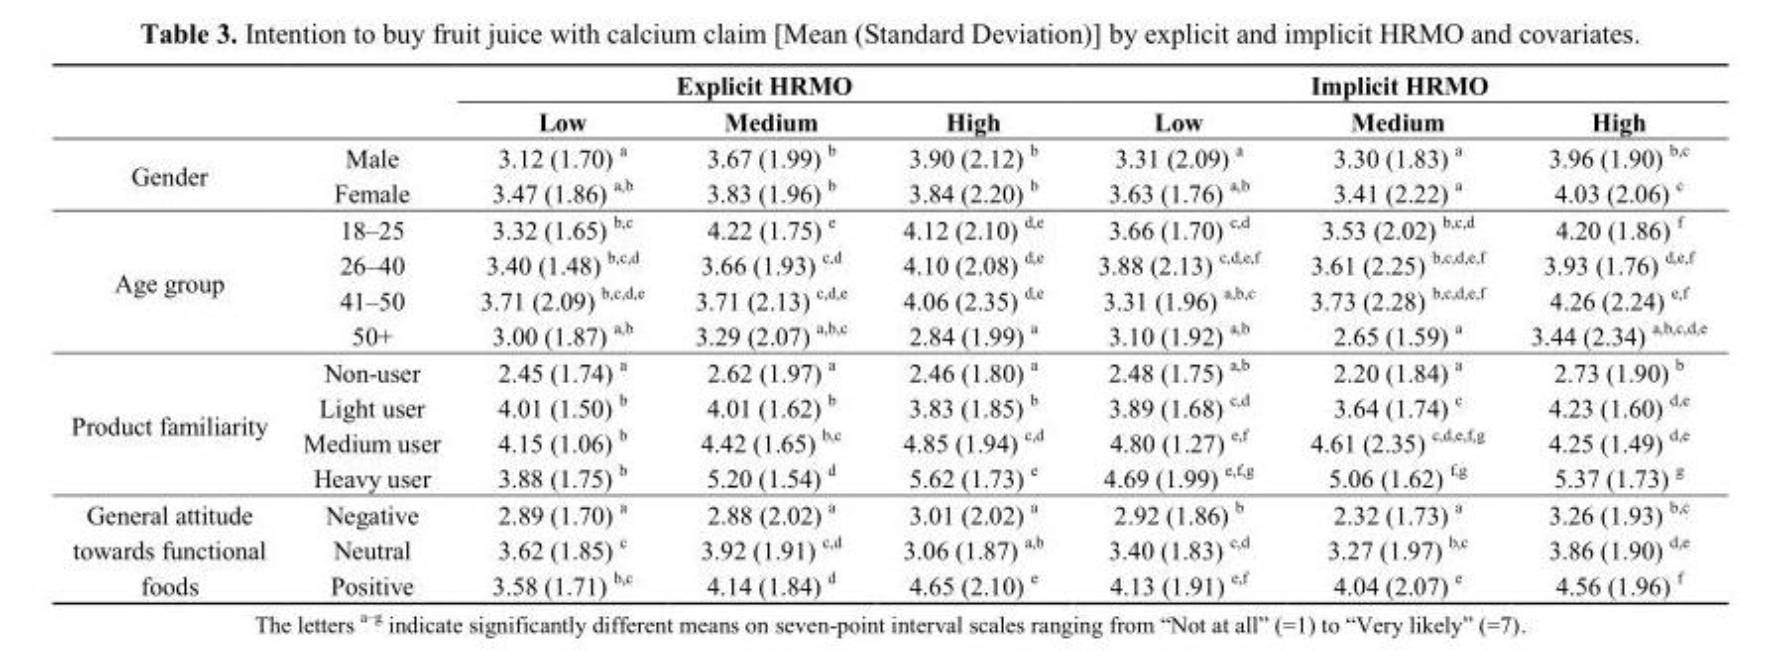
<table><thead><tr><td rowspan="2"></td><td rowspan="2"></td><td colspan="3">Explicit HRMO</td><td colspan="3">Implicit HRMO</td></tr><tr><td>Low</td><td>Medium</td><td>High</td><td>Low</td><td>Medium</td><td>High</td></tr></thead><tbody><tr><td rowspan="2">Gender</td><td>Male</td><td>3.12 (1.70) <sup>a</sup></td><td>3.67 (1.99) <sup>b</sup></td><td>3.90 (2.12) <sup>b</sup></td><td>3.31 (2.09) <sup>a</sup></td><td>3.30 (1.83) <sup>a</sup></td><td>3.96 (1.90) <sup>b,c</sup></td></tr><tr><td>Female</td><td>3.47 (1.86) <sup>a,b</sup></td><td>3.83 (1.96) <sup>b</sup></td><td>3.84 (2.20) <sup>b</sup></td><td>3.63 (1.76) <sup>a,b</sup></td><td>3.41 (2.22) <sup>a</sup></td><td>4.03 (2.06) <sup>c</sup></td></tr><tr><td rowspan="4">Age group</td><td>18–25</td><td>3.32 (1.65) <sup>b,c</sup></td><td>4.22 (1.75) <sup>e</sup></td><td>4.12 (2.10) <sup>d,e</sup></td><td>3.66 (1.70) <sup>c,d</sup></td><td>3.53 (2.02) <sup>b,c,d</sup></td><td>4.20 (1.86) <sup>f</sup></td></tr><tr><td>26–40</td><td>3.40 (1.48) <sup>b,c,d</sup></td><td>3.66 (1.93) <sup>c,d</sup></td><td>4.10 (2.08) <sup>d,e</sup></td><td>3.88 (2.13) <sup>c,d,e,f</sup></td><td>3.61 (2.25) <sup>b,c,d,e,f</sup></td><td>3.93 (1.76) <sup>d,e,f</sup></td></tr><tr><td>41–50</td><td>3.71 (2.09) <sup>b,c,d,e</sup></td><td>3.71 (2.13) <sup>c,d,e</sup></td><td>4.06 (2.35) <sup>d,e</sup></td><td>3.31 (1.96) <sup>a,b,c</sup></td><td>3.73 (2.28) <sup>b,c,d,e,f</sup></td><td>4.26 (2.24) <sup>e,f</sup></td></tr><tr><td>50+</td><td>3.00 (1.87) <sup>a,b</sup></td><td>3.29 (2.07) <sup>a,b,c</sup></td><td>2.84 (1.99) <sup>a</sup></td><td>3.10 (1.92) <sup>a,b</sup></td><td>2.65 (1.59) <sup>a</sup></td><td>3.44 (2.34) <sup>a,b,c,d,e</sup></td></tr><tr><td rowspan="4">Product familiarity</td><td>Non-user</td><td>2.45 (1.74) <sup>a</sup></td><td>2.62 (1.97) <sup>a</sup></td><td>2.46 (1.80) <sup>a</sup></td><td>2.48 (1.75) <sup>a,b</sup></td><td>2.20 (1.84) <sup>a</sup></td><td>2.73 (1.90) <sup>b</sup></td></tr><tr><td>Light user</td><td>4.01 (1.50) <sup>b</sup></td><td>4.01 (1.62) <sup>b</sup></td><td>3.83 (1.85) <sup>b</sup></td><td>3.89 (1.68) <sup>c,d</sup></td><td>3.64 (1.74) <sup>c</sup></td><td>4.23 (1.60) <sup>d,e</sup></td></tr><tr><td>Medium user</td><td>4.15 (1.06) <sup>b</sup></td><td>4.42 (1.65) <sup>b,c</sup></td><td>4.85 (1.94) <sup>c,d</sup></td><td>4.80 (1.27) <sup>e,f</sup></td><td>4.61 (2.35) <sup>c,d,e,f,g</sup></td><td>4.25 (1.49) <sup>d,e</sup></td></tr><tr><td>Heavy user</td><td>3.88 (1.75) <sup>b</sup></td><td>5.20 (1.54) <sup>d</sup></td><td>5.62 (1.73) <sup>e</sup></td><td>4.69 (1.99) <sup>e,f,g</sup></td><td>5.06 (1.62) <sup>f,g</sup></td><td>5.37 (1.73) <sup>g</sup></td></tr><tr><td rowspan="3">General attitude towards functional foods</td><td>Negative</td><td>2.89 (1.70) <sup>a</sup></td><td>2.88 (2.02) <sup>a</sup></td><td>3.01 (2.02) <sup>a</sup></td><td>2.92 (1.86) <sup>b</sup></td><td>2.32 (1.73) <sup>a</sup></td><td>3.26 (1.93) <sup>b,c</sup></td></tr><tr><td>Neutral</td><td>3.62 (1.85) <sup>c</sup></td><td>3.92 (1.91) <sup>c,d</sup></td><td>3.06 (1.87) <sup>a,b</sup></td><td>3.40 (1.83) <sup>c,d</sup></td><td>3.27 (1.97) <sup>b,c</sup></td><td>3.86 (1.90) <sup>d,e</sup></td></tr><tr><td>Positive</td><td>3.58 (1.71) <sup>b,c</sup></td><td>4.14 (1.84) <sup>d</sup></td><td>4.65 (2.10) <sup>e</sup></td><td>4.13 (1.91) <sup>e,f</sup></td><td>4.04 (2.07) <sup>e</sup></td><td>4.56 (1.96) <sup>f</sup></td></tr></tbody></table>